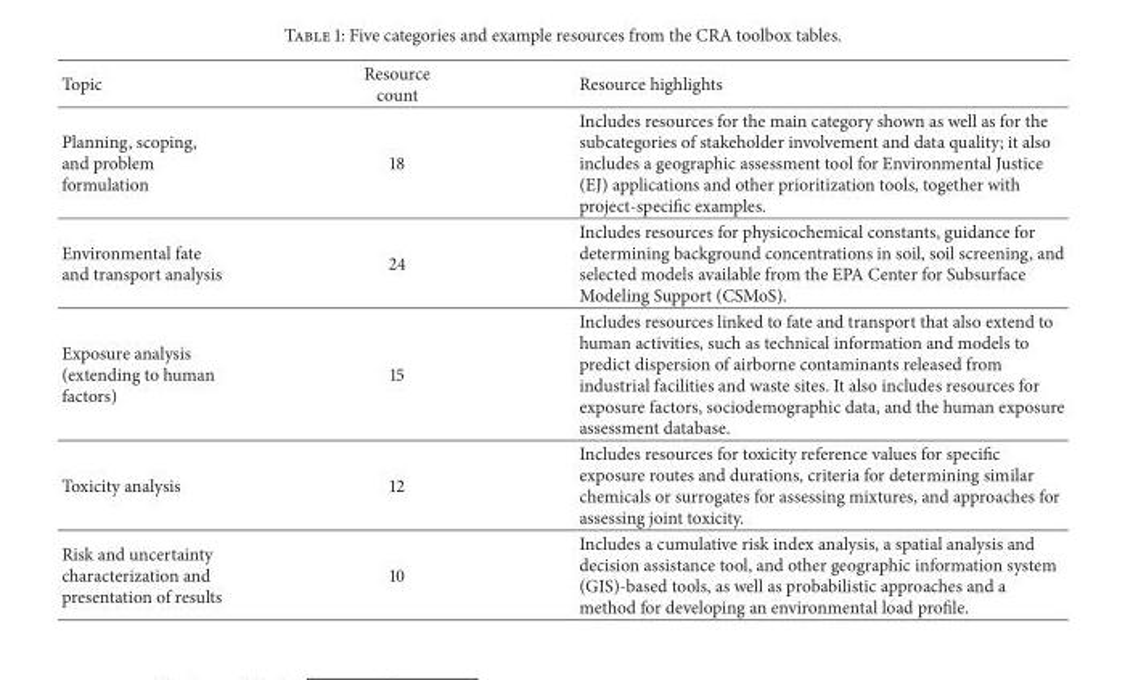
<table><thead><tr><td>Topic</td><td>Resource count</td><td>Resource highlights</td></tr></thead><tbody><tr><td>Planning, scoping, and problem formulation</td><td>18</td><td>Includes resources for the main category shown as well as for the subcategories of stakeholder involvement and data quality; it also includes a geographic assessment tool for Environmental Justice (EJ) applications and other prioritization tools, together with project-specific examples.</td></tr><tr><td>Environmental fate and transport analysis</td><td>24</td><td>Includes resources for physicochemical constants, guidance for determining background concentrations in soil, soil screening, and selected models available from the EPA Center for Subsurface Modeling Support (CSMoS).</td></tr><tr><td>Exposure analysis (extending to human factors)</td><td>15</td><td>Includes resources linked to fate and transport that also extend to human activities, such as technical information and models to predict dispersion of airborne contaminants released from industrial facilities and waste sites. It also includes resources for exposure factors, sociodemographic data, and the human exposure assessment database.</td></tr><tr><td>Toxicity analysis</td><td>12</td><td>Includes resources for toxicity reference values for specific exposure routes and durations, criteria for determining similar chemicals or surrogates for assessing mixtures, and approaches for assessing joint toxicity.</td></tr><tr><td>Risk and uncertainty characterization and presentation of results</td><td>10</td><td>Includes a cumulative risk index analysis, a spatial analysis and decision assistance tool, and other geographic information system (GIS)-based tools, as well as probabilistic approaches and a method for developing an environmental load profile.</td></tr></tbody></table>